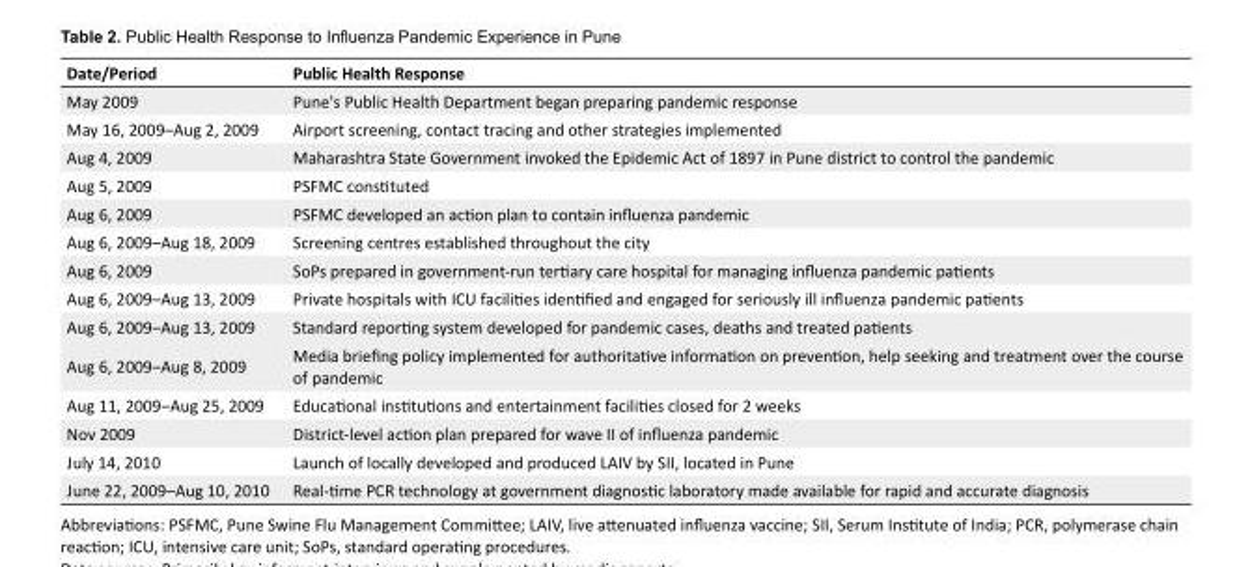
<table><tbody><tr><td>Date/Period</td><td>Public Health Response</td></tr><tr><td>May 2009</td><td>Pune&#x27;s Public Health Department began preparing pandemic response</td></tr><tr><td>May 16, 2009–Aug 2, 2009</td><td>Airport screening, contact tracing and other strategies implemented</td></tr><tr><td>Aug 4, 2009</td><td>Maharashtra State Government invoked the Epidemic Act of 1897 in Pune district to control the pandemic</td></tr><tr><td>Aug 5, 2009</td><td>PSFMC constituted</td></tr><tr><td>Aug 6, 2009</td><td>PSFMC developed an action plan to contain influenza pandemic</td></tr><tr><td>Aug 6, 2009–Aug 18, 2009</td><td>Screening centres established throughout the city</td></tr><tr><td>Aug 6, 2009</td><td>SoPs prepared in government-run tertiary care hospital for managing influenza pandemic patients</td></tr><tr><td>Aug 6, 2009–Aug 13, 2009</td><td>Private hospitals with ICU facilities identified and engaged for seriously ill influenza pandemic patients</td></tr><tr><td>Aug 6, 2009–Aug 13, 2009</td><td>Standard reporting system developed for pandemic cases, deaths and treated patients</td></tr><tr><td>Aug 6, 2009–Aug 8, 2009</td><td>Media briefing policy implemented for authoritative information on prevention, help seeking and treatment over the course of pandemic</td></tr><tr><td>Aug 11, 2009–Aug 25, 2009</td><td>Educational institutions and entertainment facilities closed for 2 weeks</td></tr><tr><td>Nov 2009</td><td>District-level action plan prepared for wave II of influenza pandemic</td></tr><tr><td>July 14, 2010</td><td>Launch of locally developed and produced LAIV by SII, located in Pune</td></tr><tr><td>June 22, 2009–Aug 10, 2010</td><td>Real-time PCR technology at government diagnostic laboratory made available for rapid and accurate diagnosis</td></tr></tbody></table>